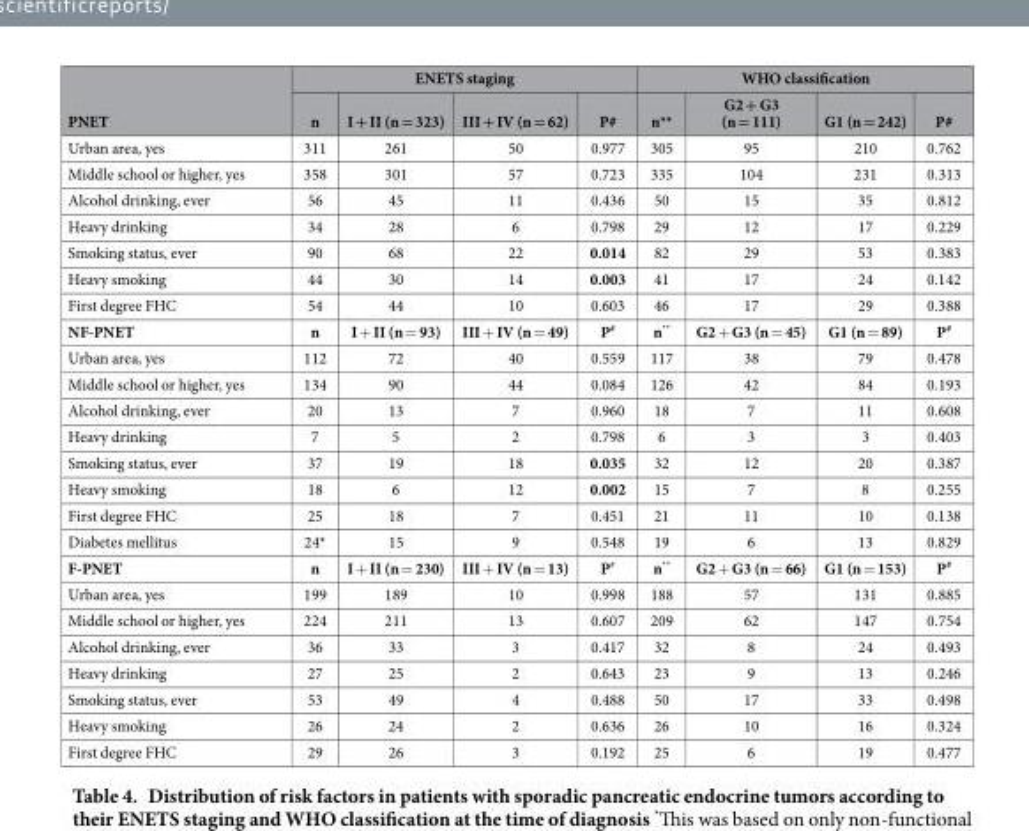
<table><thead><tr><td rowspan="2">PNET</td><td colspan="4">ENETS staging</td><td colspan="4">WHO classification</td></tr><tr><td>n</td><td>I + II (n = 323)</td><td>III + IV (n = 62)</td><td>P#</td><td>n**</td><td>G2 + G3 (n = 111)</td><td>G1 (n = 242)</td><td>P#</td></tr></thead><tbody><tr><td>Urban area, yes</td><td>311</td><td>261</td><td>50</td><td>0.977</td><td>305</td><td>95</td><td>210</td><td>0.762</td></tr><tr><td>Middle school or higher, yes</td><td>358</td><td>301</td><td>57</td><td>0.723</td><td>335</td><td>104</td><td>231</td><td>0.313</td></tr><tr><td>Alcohol drinking, ever</td><td>56</td><td>45</td><td>11</td><td>0.436</td><td>50</td><td>15</td><td>35</td><td>0.812</td></tr><tr><td>Heavy drinking</td><td>34</td><td>28</td><td>6</td><td>0.798</td><td>29</td><td>12</td><td>17</td><td>0.229</td></tr><tr><td>Smoking status, ever</td><td>90</td><td>68</td><td>22</td><td>0.014</td><td>82</td><td>29</td><td>53</td><td>0.383</td></tr><tr><td>Heavy smoking</td><td>44</td><td>30</td><td>14</td><td>0.003</td><td>41</td><td>17</td><td>24</td><td>0.142</td></tr><tr><td>First degree FHC</td><td>54</td><td>44</td><td>10</td><td>0.603</td><td>46</td><td>17</td><td>29</td><td>0.388</td></tr><tr><td>NF-PNET</td><td>n</td><td>I + II (n = 93)</td><td>III + IV (n = 49)</td><td>P#</td><td>n**</td><td>G2 + G3 (n = 45)</td><td>G1 (n = 89)</td><td>P#</td></tr><tr><td>Urban area, yes</td><td>112</td><td>72</td><td>40</td><td>0.559</td><td>117</td><td>38</td><td>79</td><td>0.478</td></tr><tr><td>Middle school or higher, yes</td><td>134</td><td>90</td><td>44</td><td>0.084</td><td>126</td><td>42</td><td>84</td><td>0.193</td></tr><tr><td>Alcohol drinking, ever</td><td>20</td><td>13</td><td>7</td><td>0.960</td><td>18</td><td>7</td><td>11</td><td>0.608</td></tr><tr><td>Heavy drinking</td><td>7</td><td>5</td><td>2</td><td>0.798</td><td>6</td><td>3</td><td>3</td><td>0.403</td></tr><tr><td>Smoking status, ever</td><td>37</td><td>19</td><td>18</td><td>0.035</td><td>32</td><td>12</td><td>20</td><td>0.387</td></tr><tr><td>Heavy smoking</td><td>18</td><td>6</td><td>12</td><td>0.002</td><td>15</td><td>7</td><td>8</td><td>0.255</td></tr><tr><td>First degree FHC</td><td>25</td><td>18</td><td>7</td><td>0.451</td><td>21</td><td>11</td><td>10</td><td>0.138</td></tr><tr><td>Diabetes mellitus</td><td>24*</td><td>15</td><td>9</td><td>0.548</td><td>19</td><td>6</td><td>13</td><td>0.829</td></tr><tr><td>F-PNET</td><td>n</td><td>I + II (n = 230)</td><td>III + IV (n = 13)</td><td>P#</td><td>n**</td><td>G2 + G3 (n = 66)</td><td>G1 (n = 153)</td><td>P#</td></tr><tr><td>Urban area, yes</td><td>199</td><td>189</td><td>10</td><td>0.998</td><td>188</td><td>57</td><td>131</td><td>0.885</td></tr><tr><td>Middle school or higher, yes</td><td>224</td><td>211</td><td>13</td><td>0.607</td><td>209</td><td>62</td><td>147</td><td>0.754</td></tr><tr><td>Alcohol drinking, ever</td><td>36</td><td>33</td><td>3</td><td>0.417</td><td>32</td><td>8</td><td>24</td><td>0.493</td></tr><tr><td>Heavy drinking</td><td>27</td><td>25</td><td>2</td><td>0.643</td><td>23</td><td>9</td><td>13</td><td>0.246</td></tr><tr><td>Smoking status, ever</td><td>53</td><td>49</td><td>4</td><td>0.488</td><td>50</td><td>17</td><td>33</td><td>0.498</td></tr><tr><td>Heavy smoking</td><td>26</td><td>24</td><td>2</td><td>0.636</td><td>26</td><td>10</td><td>16</td><td>0.324</td></tr><tr><td>First degree FHC</td><td>29</td><td>26</td><td>3</td><td>0.192</td><td>25</td><td>6</td><td>19</td><td>0.477</td></tr></tbody></table>